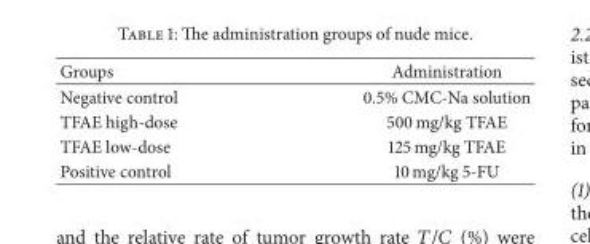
<table><thead><tr><td>Groups</td><td>Administration</td></tr></thead><tbody><tr><td>Negative control</td><td>0.5% CMC-Na solution</td></tr><tr><td>TFAE high-dose</td><td>500 mg/kg TFAE</td></tr><tr><td>TFAE low-dose</td><td>125 mg/kg TFAE</td></tr><tr><td>Positive control</td><td>10 mg/kg 5-FU</td></tr></tbody></table>